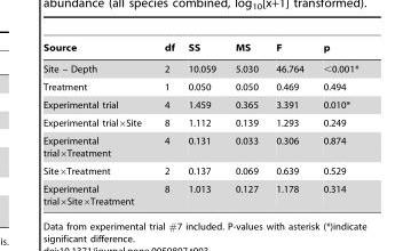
<table><thead><tr><td>Source</td><td>df</td><td>SS</td><td>MS</td><td>F</td><td>p</td></tr></thead><tbody><tr><td>Site – Depth</td><td>2</td><td>10.059</td><td>5.030</td><td>46.764</td><td>&lt;0.001*</td></tr><tr><td>Treatment</td><td>1</td><td>0.050</td><td>0.050</td><td>0.469</td><td>0.494</td></tr><tr><td>Experimental trial</td><td>4</td><td>1.459</td><td>0.365</td><td>3.391</td><td>0.010*</td></tr><tr><td>Experimental trial×Site</td><td>8</td><td>1.112</td><td>0.139</td><td>1.293</td><td>0.249</td></tr><tr><td>Experimental trial×Treatment</td><td>4</td><td>0.131</td><td>0.033</td><td>0.306</td><td>0.874</td></tr><tr><td>Site×Treatment</td><td>2</td><td>0.137</td><td>0.069</td><td>0.639</td><td>0.529</td></tr><tr><td>Experimental trial×Site×Treatment</td><td>8</td><td>1.013</td><td>0.127</td><td>1.178</td><td>0.314</td></tr></tbody></table>